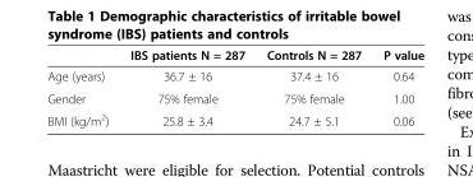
<table><thead><tr><td></td><td>IBS patients N = 287</td><td>Controls N = 287</td><td>P value</td></tr></thead><tbody><tr><td>Age (years)</td><td>36.7 ± 16</td><td>37.4 ± 16</td><td>0.64</td></tr><tr><td>Gender</td><td>75% female</td><td>75% female</td><td>1.00</td></tr><tr><td>BMI (kg/m<sup>2</sup>)</td><td>25.8 ± 3.4</td><td>24.7 ± 5.1</td><td>0.06</td></tr></tbody></table>